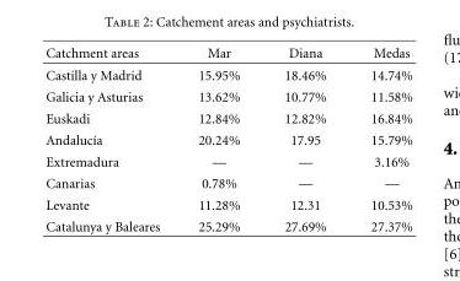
<table><thead><tr><td>Catchment areas</td><td>Mar</td><td>Diana</td><td>Medas</td></tr></thead><tbody><tr><td>Castilla y Madrid</td><td>15.95%</td><td>18.46%</td><td>14.74%</td></tr><tr><td>Galicia y Asturias</td><td>13.62%</td><td>10.77%</td><td>11.58%</td></tr><tr><td>Euskadi</td><td>12.84%</td><td>12.82%</td><td>16.84%</td></tr><tr><td>Andaluc´ıa</td><td>20.24%</td><td>17.95</td><td>15.79%</td></tr><tr><td>Extremadura</td><td>—</td><td>—</td><td>3.16%</td></tr><tr><td>Canarias</td><td>0.78%</td><td>—</td><td>—</td></tr><tr><td>Levante</td><td>11.28%</td><td>12.31</td><td>10.53%</td></tr><tr><td>Catalunya y Baleares</td><td>25.29%</td><td>27.69%</td><td>27.37%</td></tr></tbody></table>